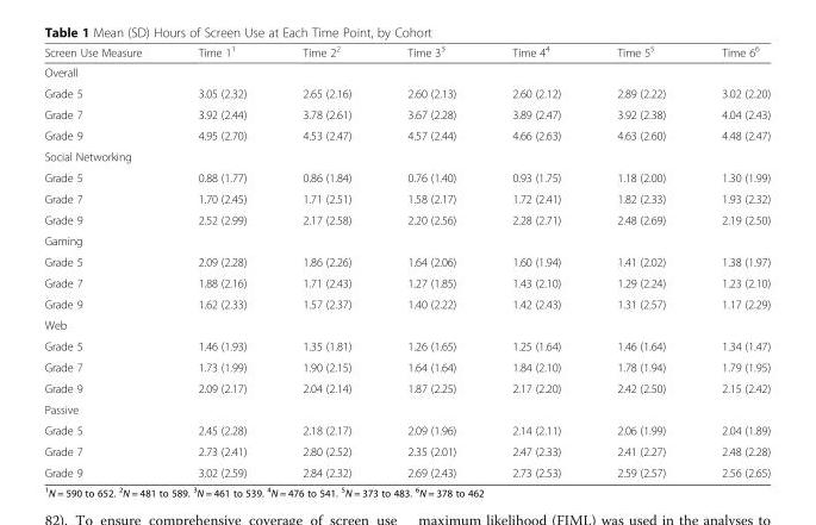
<table><thead><tr><td>Screen Use Measure</td><td>Time 1<sup>1</sup></td><td>Time 2<sup>2</sup></td><td>Time 3<sup>3</sup></td><td>Time 4<sup>4</sup></td><td>Time 5<sup>5</sup></td><td>Time 6<sup>6</sup></td></tr></thead><tbody><tr><td colspan="7">Overall</td></tr><tr><td>Grade 5</td><td>3.05 (2.32)</td><td>2.65 (2.16)</td><td>2.60 (2.13)</td><td>2.60 (2.12)</td><td>2.89 (2.22)</td><td>3.02 (2.20)</td></tr><tr><td>Grade 7</td><td>3.92 (2.44)</td><td>3.78 (2.61)</td><td>3.67 (2.28)</td><td>3.89 (2.47)</td><td>3.92 (2.38)</td><td>4.04 (2.43)</td></tr><tr><td>Grade 9</td><td>4.95 (2.70)</td><td>4.53 (2.47)</td><td>4.57 (2.44)</td><td>4.66 (2.63)</td><td>4.63 (2.60)</td><td>4.48 (2.47)</td></tr><tr><td colspan="7">Social Networking</td></tr><tr><td>Grade 5</td><td>0.88 (1.77)</td><td>0.86 (1.84)</td><td>0.76 (1.40)</td><td>0.93 (1.75)</td><td>1.18 (2.00)</td><td>1.30 (1.99)</td></tr><tr><td>Grade 7</td><td>1.70 (2.45)</td><td>1.71 (2.51)</td><td>1.58 (2.17)</td><td>1.72 (2.41)</td><td>1.82 (2.33)</td><td>1.93 (2.32)</td></tr><tr><td>Grade 9</td><td>2.52 (2.99)</td><td>2.17 (2.58)</td><td>2.20 (2.56)</td><td>2.28 (2.71)</td><td>2.48 (2.69)</td><td>2.19 (2.50)</td></tr><tr><td colspan="7">Gaming</td></tr><tr><td>Grade 5</td><td>2.09 (2.28)</td><td>1.86 (2.26)</td><td>1.64 (2.06)</td><td>1.60 (1.94)</td><td>1.41 (2.02)</td><td>1.38 (1.97)</td></tr><tr><td>Grade 7</td><td>1.88 (2.16)</td><td>1.71 (2.43)</td><td>1.27 (1.85)</td><td>1.43 (2.10)</td><td>1.29 (2.24)</td><td>1.23 (2.10)</td></tr><tr><td>Grade 9</td><td>1.62 (2.33)</td><td>1.57 (2.37)</td><td>1.40 (2.22)</td><td>1.42 (2.43)</td><td>1.31 (2.57)</td><td>1.17 (2.29)</td></tr><tr><td colspan="7">Web</td></tr><tr><td>Grade 5</td><td>1.46 (1.93)</td><td>1.35 (1.81)</td><td>1.26 (1.65)</td><td>1.25 (1.64)</td><td>1.46 (1.64)</td><td>1.34 (1.47)</td></tr><tr><td>Grade 7</td><td>1.73 (1.99)</td><td>1.90 (2.15)</td><td>1.64 (1.64)</td><td>1.84 (2.10)</td><td>1.78 (1.94)</td><td>1.79 (1.95)</td></tr><tr><td>Grade 9</td><td>2.09 (2.17)</td><td>2.04 (2.14)</td><td>1.87 (2.25)</td><td>2.17 (2.20)</td><td>2.42 (2.50)</td><td>2.15 (2.42)</td></tr><tr><td colspan="7">Passive</td></tr><tr><td>Grade 5</td><td>2.45 (2.28)</td><td>2.18 (2.17)</td><td>2.09 (1.96)</td><td>2.14 (2.11)</td><td>2.06 (1.99)</td><td>2.04 (1.89)</td></tr><tr><td>Grade 7</td><td>2.73 (2.41)</td><td>2.80 (2.52)</td><td>2.35 (2.01)</td><td>2.47 (2.33)</td><td>2.41 (2.27)</td><td>2.48 (2.28)</td></tr><tr><td>Grade 9</td><td>3.02 (2.59)</td><td>2.84 (2.32)</td><td>2.69 (2.43)</td><td>2.73 (2.53)</td><td>2.59 (2.57)</td><td>2.56 (2.65)</td></tr></tbody></table>